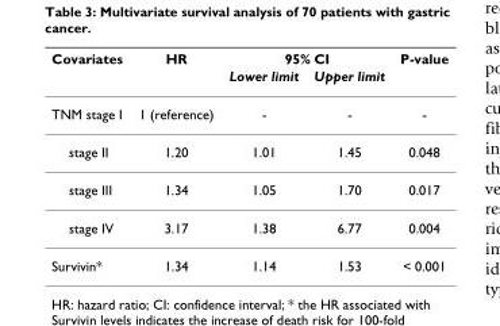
<table><thead><tr><td rowspan="2">Covariates</td><td rowspan="2">HR</td><td colspan="2">95% CI</td><td rowspan="2">P-value</td></tr><tr><td>Lower limit</td><td>Upper limit</td></tr></thead><tbody><tr><td>TNM stage I</td><td>1 (reference)</td><td>-</td><td>-</td><td>-</td></tr><tr><td>stage II</td><td>1.20</td><td>1.01</td><td>1.45</td><td>0.048</td></tr><tr><td>stage III</td><td>1.34</td><td>1.05</td><td>1.70</td><td>0.017</td></tr><tr><td>stage IV</td><td>3.17</td><td>1.38</td><td>6.77</td><td>0.004</td></tr><tr><td>Survivin*</td><td>1.34</td><td>1.14</td><td>1.53</td><td>&lt; 0.001</td></tr></tbody></table>